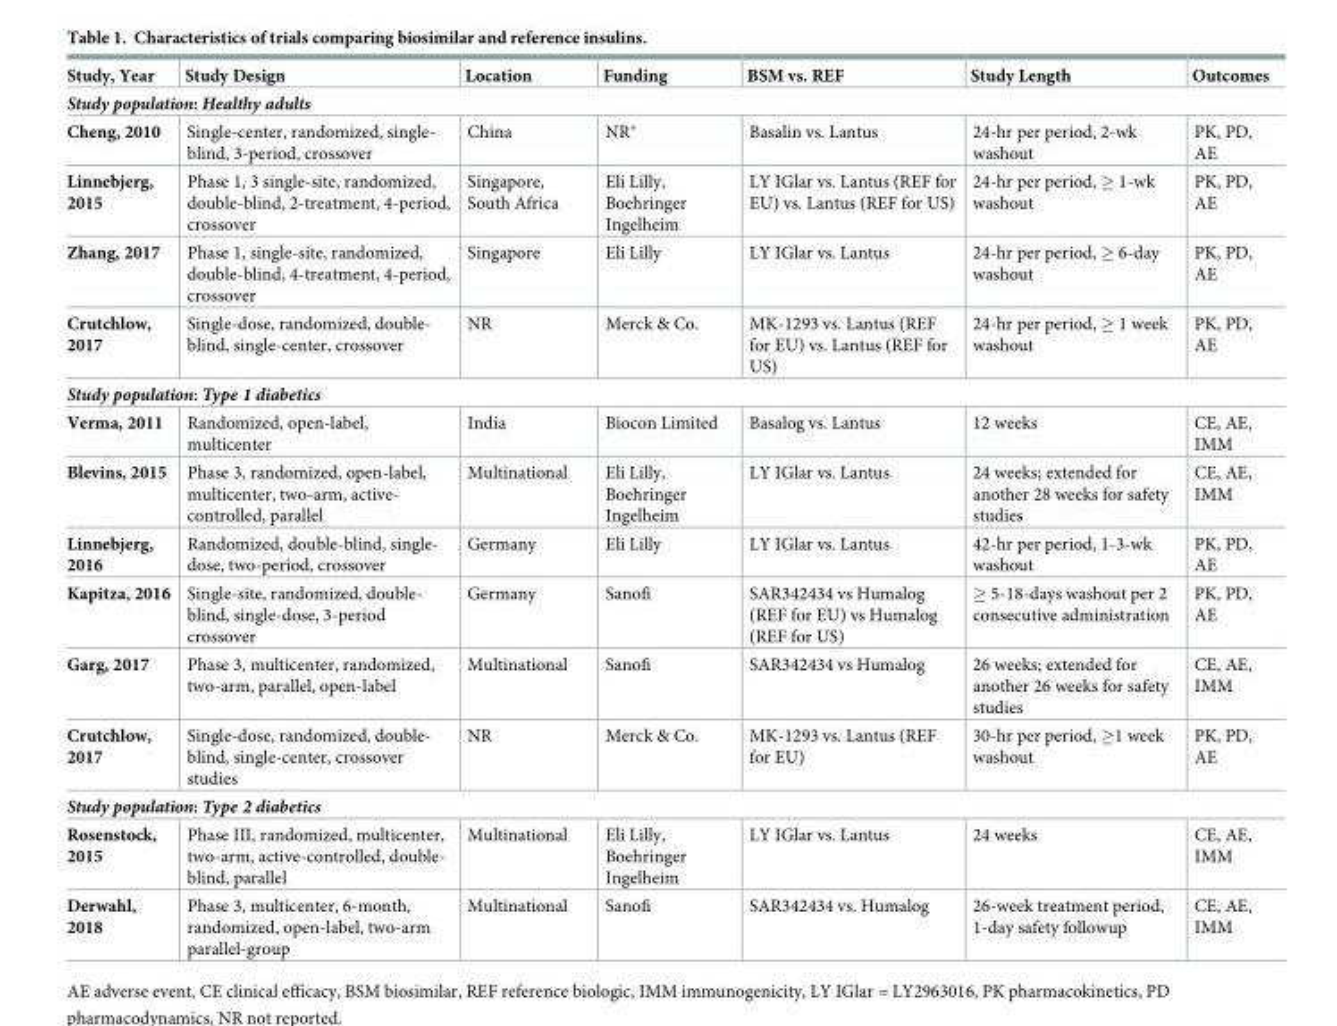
<table><thead><tr><td>Study, Year</td><td>Study Design</td><td>Location</td><td>Funding</td><td>BSM vs. REF</td><td>Study Length</td><td>Outcomes</td></tr></thead><tbody><tr><td colspan="7">Study population: Healthy adults</td></tr><tr><td>Cheng, 2010</td><td>Single-center, randomized, single- blind, 3-period, crossover</td><td>China</td><td>NR*</td><td>Basalin vs. Lantus</td><td>24-hr per period, 2-wk washout</td><td>PK, PD, AE</td></tr><tr><td>Linnebjerg, 2015</td><td>Phase 1, 3 single-site, randomized, double-blind, 2-treatment, 4-period, crossover</td><td>Singapore, South Africa</td><td>Eli Lilly, Boehringer Ingelheim</td><td>LY IGlar vs. Lantus (REF for EU) vs. Lantus (REF for US)</td><td>24-hr per period, ≥ 1-wk washout</td><td>PK, PD, AE</td></tr><tr><td>Zhang, 2017</td><td>Phase 1, single-site, randomized, double-blind, 4-treatment, 4-period, crossover</td><td>Singapore</td><td>Eli Lilly</td><td>LY IGlar vs. Lantus</td><td>24-hr per period, ≥ 6-day washout</td><td>PK, PD, AE</td></tr><tr><td>Crutchlow, 2017</td><td>Single-dose, randomized, double- blind, single-center, crossover</td><td>NR</td><td>Merck &amp; Co.</td><td>MK-1293 vs. Lantus (REF for EU) vs. Lantus (REF for US)</td><td>24-hr per period, ≥ 1 week washout</td><td>PK, PD, AE</td></tr><tr><td colspan="7">Study population: Type 1 diabetics</td></tr><tr><td>Verma, 2011</td><td>Randomized, open-label, multicenter</td><td>India</td><td>Biocon Limited</td><td>Basalog vs. Lantus</td><td>12 weeks</td><td>CE, AE, IMM</td></tr><tr><td>Blevins, 2015</td><td>Phase 3, randomized, open-label, multicenter, two-arm, active- controlled, parallel</td><td>Multinational</td><td>Eli Lilly, Boehringer Ingelheim</td><td>LY IGlar vs. Lantus</td><td>24 weeks; extended for another 28 weeks for safety studies</td><td>CE, AE, IMM</td></tr><tr><td>Linnebjerg, 2016</td><td>Randomized, double-blind, single- dose, two-period, crossover</td><td>Germany</td><td>Eli Lilly</td><td>LY IGlar vs. Lantus</td><td>42-hr per period, 1-3-wk washout</td><td>PK, PD, AE</td></tr><tr><td>Kapitza, 2016</td><td>Single-site, randomized, double- blind, single-dose, 3-period crossover</td><td>Germany</td><td>Sanofi</td><td>SAR342434 vs Humalog (REF for EU) vs Humalog (REF for US)</td><td>≥ 5-18-days washout per 2 consecutive administration</td><td>PK, PD, AE</td></tr><tr><td>Garg, 2017</td><td>Phase 3, multicenter, randomized, two-arm, parallel, open-label</td><td>Multinational</td><td>Sanofi</td><td>SAR342434 vs Humalog</td><td>26 weeks; extended for another 26 weeks for safety studies</td><td>CE, AE, IMM</td></tr><tr><td>Crutchlow, 2017</td><td>Single-dose, randomized, double- blind, single-center, crossover studies</td><td>NR</td><td>Merck &amp; Co.</td><td>MK-1293 vs. Lantus (REF for EU)</td><td>30-hr per period, ≥1 week washout</td><td>PK, PD, AE</td></tr><tr><td colspan="7">Study population: Type 2 diabetics</td></tr><tr><td>Rosenstock, 2015</td><td>Phase III, randomized, multicenter, two-arm, active-controlled, double- blind, parallel</td><td>Multinational</td><td>Eli Lilly, Boehringer Ingelheim</td><td>LY IGlar vs. Lantus</td><td>24 weeks</td><td>CE, AE, IMM</td></tr><tr><td>Derwahl, 2018</td><td>Phase 3, multicenter, 6-month, randomized, open-label, two-arm parallel-group</td><td>Multinational</td><td>Sanofi</td><td>SAR342434 vs. Humalog</td><td>26-week treatment period, 1-day safety followup</td><td>CE, AE, IMM</td></tr></tbody></table>